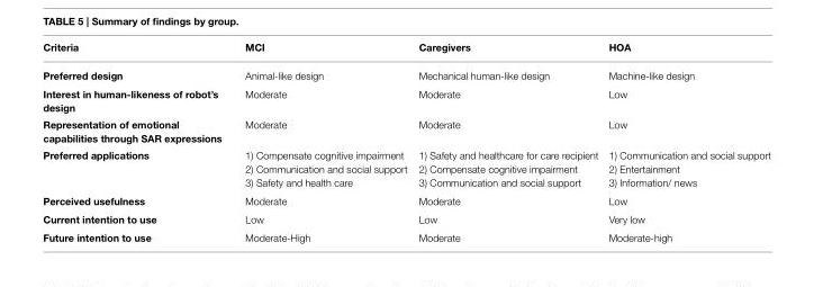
<table><thead><tr><td>Criteria</td><td>MCI</td><td>Caregivers</td><td>HOA</td></tr></thead><tbody><tr><td>Preferred design</td><td>Animal-like design</td><td>Mechanical human-like design</td><td>Machine-like design</td></tr><tr><td>Interest in human-likeness of robot’s design</td><td>Moderate</td><td>Moderate</td><td>Low</td></tr><tr><td>Representation of emotional capabilities through SAR expressions</td><td>Moderate</td><td>Moderate</td><td>Low</td></tr><tr><td>Preferred applications</td><td>1) Compensate cognitive impairment 2) Communication and social support 3) Safety and health care</td><td>1) Safety and healthcare for care recipient 2) Compensate cognitive impairment 3) Communication and social support</td><td>1) Communication and social support 2) Entertainment 3) Information/ news</td></tr><tr><td>Perceived usefulness</td><td>Moderate</td><td>Moderate</td><td>Low</td></tr><tr><td>Current intention to use</td><td>Low</td><td>Low</td><td>Very low</td></tr><tr><td>Future intention to use</td><td>Moderate-High</td><td>Moderate</td><td>Moderate-high</td></tr></tbody></table>